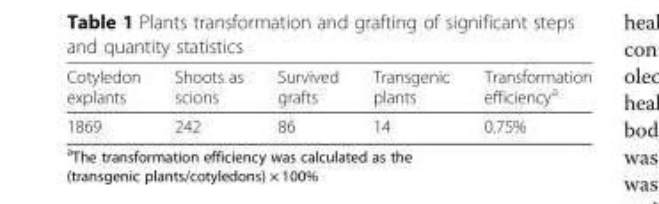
<table><thead><tr><td>Cotyledon explants</td><td>Shoots as scions</td><td>Survived grafts</td><td>Transgenic plants</td><td>Transformation efficiency<sup>a</sup></td></tr></thead><tbody><tr><td>1869</td><td>242</td><td>86</td><td>14</td><td>0.75%</td></tr></tbody></table>